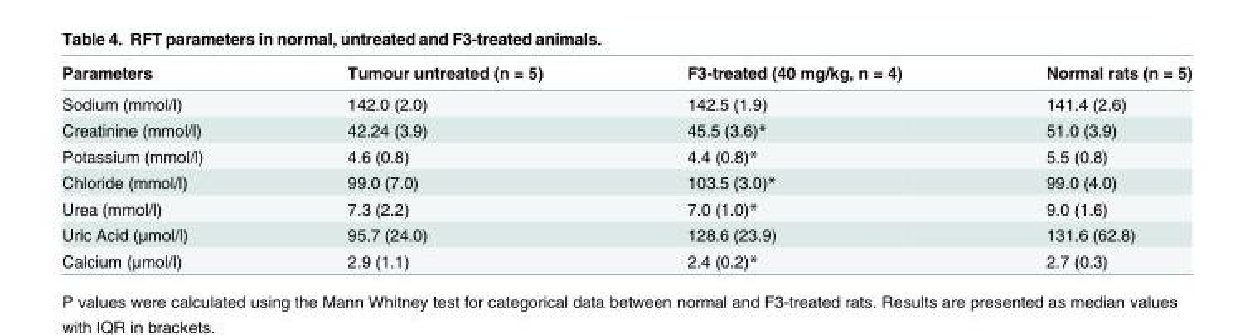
<table><thead><tr><td>Parameters</td><td>Tumour untreated (n = 5)</td><td>F3-treated (40 mg/kg, n = 4)</td><td>Normal rats (n = 5)</td></tr></thead><tbody><tr><td>Sodium (mmol/l)</td><td>142.0 (2.0)</td><td>142.5 (1.9)</td><td>141.4 (2.6)</td></tr><tr><td>Creatinine (mmol/l)</td><td>42.24 (3.9)</td><td>45.5 (3.6)*</td><td>51.0 (3.9)</td></tr><tr><td>Potassium (mmol/l)</td><td>4.6 (0.8)</td><td>4.4 (0.8)*</td><td>5.5 (0.8)</td></tr><tr><td>Chloride (mmol/l)</td><td>99.0 (7.0)</td><td>103.5 (3.0)*</td><td>99.0 (4.0)</td></tr><tr><td>Urea (mmol/l)</td><td>7.3 (2.2)</td><td>7.0 (1.0)*</td><td>9.0 (1.6)</td></tr><tr><td>Uric Acid (μmol/l)</td><td>95.7 (24.0)</td><td>128.6 (23.9)</td><td>131.6 (62.8)</td></tr><tr><td>Calcium (μmol/l)</td><td>2.9 (1.1)</td><td>2.4 (0.2)*</td><td>2.7 (0.3)</td></tr></tbody></table>